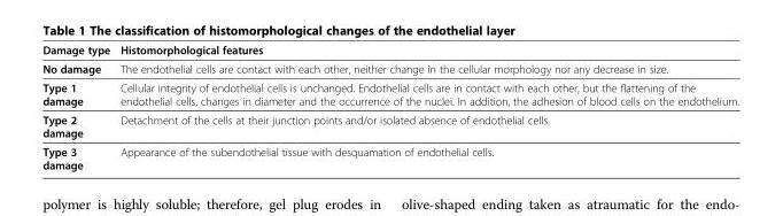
<table><thead><tr><td>Damage type</td><td>Histomorphological features</td></tr></thead><tbody><tr><td>No damage</td><td>The endothelial cells are contact with each other, neither change in the cellular morphology nor any decrease in size.</td></tr><tr><td>Type 1 damage</td><td>Cellular integrity of endothelial cells is unchanged. Endothelial cells are in contact with each other, but the flattening of the endothelial cells, changes in diameter and the occurrence of the nuclei. In addition, the adhesion of blood cells on the endothelium.</td></tr><tr><td>Type 2 damage</td><td>Detachment of the cells at their junction points and/or isolated absence of endothelial cells.</td></tr><tr><td>Type 3 damage</td><td>Appearance of the subendothelial tissue with desquamation of endothelial cells.</td></tr></tbody></table>